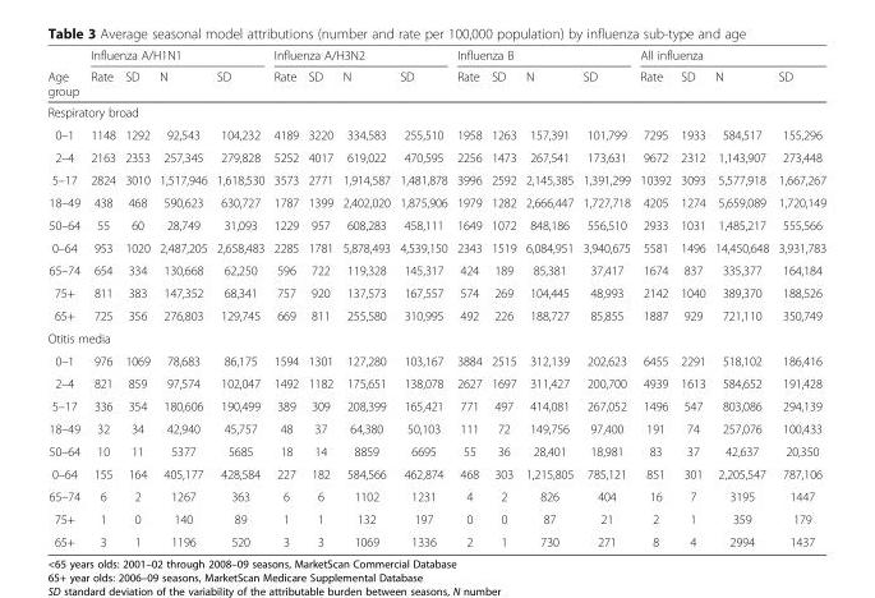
<table><thead><tr><td rowspan="2">Age group</td><td colspan="4">Influenza A/H1N1</td><td colspan="4">Influenza A/H3N2</td><td colspan="4">Influenza B</td><td colspan="4">All influenza</td></tr><tr><td>Rate</td><td>SD</td><td>N</td><td>SD</td><td>Rate</td><td>SD</td><td>N</td><td>SD</td><td>Rate</td><td>SD</td><td>N</td><td>SD</td><td>Rate</td><td>SD</td><td>N</td><td>SD</td></tr></thead><tbody><tr><td colspan="17">Respiratory broad</td></tr><tr><td>0–1</td><td>1148</td><td>1292</td><td>92,543</td><td>104,232</td><td>4189</td><td>3220</td><td>334,583</td><td>255,510</td><td>1958</td><td>1263</td><td>157,391</td><td>101,799</td><td>7295</td><td>1933</td><td>584,517</td><td>155,296</td></tr><tr><td>2–4</td><td>2163</td><td>2353</td><td>257,345</td><td>279,828</td><td>5252</td><td>4017</td><td>619,022</td><td>470,595</td><td>2256</td><td>1473</td><td>267,541</td><td>173,631</td><td>9672</td><td>2312</td><td>1,143,907</td><td>273,448</td></tr><tr><td>5–17</td><td>2824</td><td>3010</td><td>1,517,946</td><td>1,618,530</td><td>3573</td><td>2771</td><td>1,914,587</td><td>1,481,878</td><td>3996</td><td>2592</td><td>2,145,385</td><td>1,391,299</td><td>10392</td><td>3093</td><td>5,577,918</td><td>1,667,267</td></tr><tr><td>18–49</td><td>438</td><td>468</td><td>590,623</td><td>630,727</td><td>1787</td><td>1399</td><td>2,402,020</td><td>1,875,906</td><td>1979</td><td>1282</td><td>2,666,447</td><td>1,727,718</td><td>4205</td><td>1274</td><td>5,659,089</td><td>1,720,149</td></tr><tr><td>50–64</td><td>55</td><td>60</td><td>28,749</td><td>31,093</td><td>1229</td><td>957</td><td>608,283</td><td>458,111</td><td>1649</td><td>1072</td><td>848,186</td><td>556,510</td><td>2933</td><td>1031</td><td>1,485,217</td><td>555,566</td></tr><tr><td>0–64</td><td>953</td><td>1020</td><td>2,487,205</td><td>2,658,483</td><td>2285</td><td>1781</td><td>5,878,493</td><td>4,539,150</td><td>2343</td><td>1519</td><td>6,084,951</td><td>3,940,675</td><td>5581</td><td>1496</td><td>14,450,648</td><td>3,931,783</td></tr><tr><td>65–74</td><td>654</td><td>334</td><td>130,668</td><td>62,250</td><td>596</td><td>722</td><td>119,328</td><td>145,317</td><td>424</td><td>189</td><td>85,381</td><td>37,417</td><td>1674</td><td>837</td><td>335,377</td><td>164,184</td></tr><tr><td>75+</td><td>811</td><td>383</td><td>147,352</td><td>68,341</td><td>757</td><td>920</td><td>137,573</td><td>167,557</td><td>574</td><td>269</td><td>104,445</td><td>48,993</td><td>2142</td><td>1040</td><td>389,370</td><td>188,526</td></tr><tr><td>65+</td><td>725</td><td>356</td><td>276,803</td><td>129,745</td><td>669</td><td>811</td><td>255,580</td><td>310,995</td><td>492</td><td>226</td><td>188,727</td><td>85,855</td><td>1887</td><td>929</td><td>721,110</td><td>350,749</td></tr><tr><td colspan="17">Otitis media</td></tr><tr><td>0–1</td><td>976</td><td>1069</td><td>78,683</td><td>86,175</td><td>1594</td><td>1301</td><td>127,280</td><td>103,167</td><td>3884</td><td>2515</td><td>312,139</td><td>202,623</td><td>6455</td><td>2291</td><td>518,102</td><td>186,416</td></tr><tr><td>2–4</td><td>821</td><td>859</td><td>97,574</td><td>102,047</td><td>1492</td><td>1182</td><td>175,651</td><td>138,078</td><td>2627</td><td>1697</td><td>311,427</td><td>200,700</td><td>4939</td><td>1613</td><td>584,652</td><td>191,428</td></tr><tr><td>5–17</td><td>336</td><td>354</td><td>180,606</td><td>190,499</td><td>389</td><td>309</td><td>208,399</td><td>165,421</td><td>771</td><td>497</td><td>414,081</td><td>267,052</td><td>1496</td><td>547</td><td>803,086</td><td>294,139</td></tr><tr><td>18–49</td><td>32</td><td>34</td><td>42,940</td><td>45,757</td><td>48</td><td>37</td><td>64,380</td><td>50,103</td><td>111</td><td>72</td><td>149,756</td><td>97,400</td><td>191</td><td>74</td><td>257,076</td><td>100,433</td></tr><tr><td>50–64</td><td>10</td><td>11</td><td>5377</td><td>5685</td><td>18</td><td>14</td><td>8859</td><td>6695</td><td>55</td><td>36</td><td>28,401</td><td>18,981</td><td>83</td><td>37</td><td>42,637</td><td>20,350</td></tr><tr><td>0–64</td><td>155</td><td>164</td><td>405,177</td><td>428,584</td><td>227</td><td>182</td><td>584,566</td><td>462,874</td><td>468</td><td>303</td><td>1,215,805</td><td>785,121</td><td>851</td><td>301</td><td>2,205,547</td><td>787,106</td></tr><tr><td>65–74</td><td>6</td><td>2</td><td>1267</td><td>363</td><td>6</td><td>6</td><td>1102</td><td>1231</td><td>4</td><td>2</td><td>826</td><td>404</td><td>16</td><td>7</td><td>3195</td><td>1447</td></tr><tr><td>75+</td><td>1</td><td>0</td><td>140</td><td>89</td><td>1</td><td>1</td><td>132</td><td>197</td><td>0</td><td>0</td><td>87</td><td>21</td><td>2</td><td>1</td><td>359</td><td>179</td></tr><tr><td>65+</td><td>3</td><td>1</td><td>1196</td><td>520</td><td>3</td><td>3</td><td>1069</td><td>1336</td><td>2</td><td>1</td><td>730</td><td>271</td><td>8</td><td>4</td><td>2994</td><td>1437</td></tr></tbody></table>